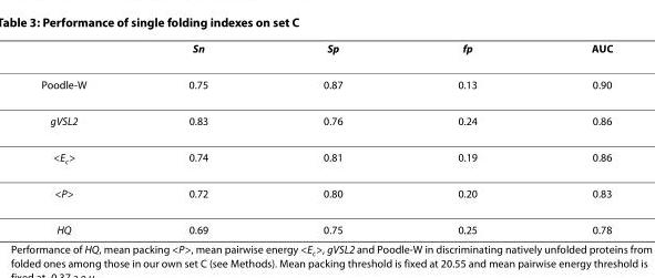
<table><thead><tr><td></td><td>S<sub>n</sub></td><td>S<sub>p</sub></td><td>f<sub>p</sub></td><td>AUC</td></tr></thead><tbody><tr><td>Poodle-W</td><td>0.75</td><td>0.87</td><td>0.13</td><td>0.90</td></tr><tr><td>gVSL2</td><td>0.83</td><td>0.76</td><td>0.24</td><td>0.86</td></tr><tr><td>&lt;E<sub>c</sub>&gt;</td><td>0.74</td><td>0.81</td><td>0.19</td><td>0.86</td></tr><tr><td>&lt;P&gt;</td><td>0.72</td><td>0.80</td><td>0.20</td><td>0.83</td></tr><tr><td>HQ</td><td>0.69</td><td>0.75</td><td>0.25</td><td>0.78</td></tr></tbody></table>